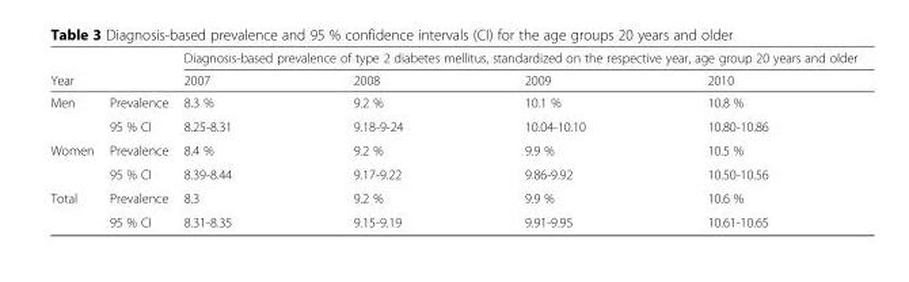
<table><thead><tr><td></td><td></td><td colspan="4">Diagnosis-based prevalence of type 2 diabetes mellitus, standardized on the respective year, age group 20 years and older</td></tr><tr><td colspan="2">Year</td><td>2007</td><td>2008</td><td>2009</td><td>2010</td></tr></thead><tbody><tr><td rowspan="2">Men</td><td>Prevalence</td><td>8.3 %</td><td>9.2 %</td><td>10.1 %</td><td>10.8 %</td></tr><tr><td>95 % CI</td><td>8.25-8.31</td><td>9.18-9-24</td><td>10.04-10.10</td><td>10.80-10.86</td></tr><tr><td rowspan="2">Women</td><td>Prevalence</td><td>8.4 %</td><td>9.2 %</td><td>9.9 %</td><td>10.5 %</td></tr><tr><td>95 % CI</td><td>8.39-8.44</td><td>9.17-9.22</td><td>9.86-9.92</td><td>10.50-10.56</td></tr><tr><td rowspan="2">Total</td><td>Prevalence</td><td>8.3</td><td>9.2 %</td><td>9.9 %</td><td>10.6 %</td></tr><tr><td>95 % CI</td><td>8.31-8.35</td><td>9.15-9.19</td><td>9.91-9.95</td><td>10.61-10.65</td></tr></tbody></table>